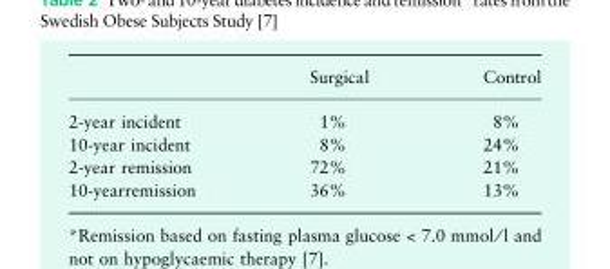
<table><thead><tr><td></td><td>Surgical</td><td>Control</td></tr></thead><tbody><tr><td>2-year incident</td><td>1%</td><td>8%</td></tr><tr><td>10-year incident</td><td>8%</td><td>24%</td></tr><tr><td>2-year remission</td><td>72%</td><td>21%</td></tr><tr><td>10-yearremission</td><td>36%</td><td>13%</td></tr></tbody></table>